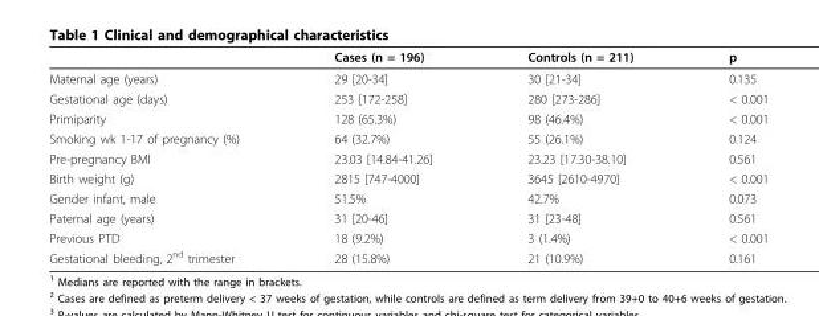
<table><thead><tr><td></td><td>Cases (n = 196)</td><td>Controls (n = 211)</td><td>p</td></tr></thead><tbody><tr><td>Maternal age (years)</td><td>29 [20-34]</td><td>30 [21-34]</td><td>0.135</td></tr><tr><td>Gestational age (days)</td><td>253 [172-258]</td><td>280 [273-286]</td><td>&lt; 0.001</td></tr><tr><td>Primiparity</td><td>128 (65.3%)</td><td>98 (46.4%)</td><td>&lt; 0.001</td></tr><tr><td>Smoking wk 1-17 of pregnancy (%)</td><td>64 (32.7%)</td><td>55 (26.1%)</td><td>0.124</td></tr><tr><td>Pre-pregnancy BMI</td><td>23.03 [14.84-41.26]</td><td>23.23 [17.30-38.10]</td><td>0.561</td></tr><tr><td>Birth weight (g)</td><td>2815 [747-4000]</td><td>3645 [2610-4970]</td><td>&lt; 0.001</td></tr><tr><td>Gender infant, male</td><td>51.5%</td><td>42.7%</td><td>0.073</td></tr><tr><td>Paternal age (years)</td><td>31 [20-46]</td><td>31 [23-48]</td><td>0.561</td></tr><tr><td>Previous PTD</td><td>18 (9.2%)</td><td>3 (1.4%)</td><td>&lt; 0.001</td></tr><tr><td>Gestational bleeding, 2<sup>nd</sup> trimester</td><td>28 (15.8%)</td><td>21 (10.9%)</td><td>0.161</td></tr></tbody></table>